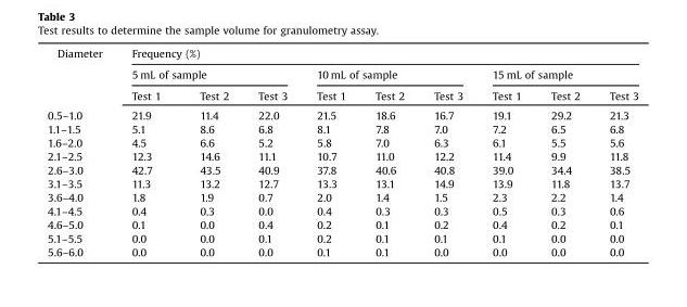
<table><thead><tr><td rowspan="3">Diameter</td><td colspan="9">Frequency (%)</td></tr><tr><td colspan="3">5 mL of sample</td><td colspan="3">10 mL of sample</td><td colspan="3">15 mL of sample</td></tr><tr><td>Test 1</td><td>Test 2</td><td>Test 3</td><td>Test 1</td><td>Test 2</td><td>Test 3</td><td>Test 1</td><td>Test 2</td><td>Test 3</td></tr></thead><tbody><tr><td>0.5–1.0</td><td>21.9</td><td>11.4</td><td>22.0</td><td>21.5</td><td>18.6</td><td>16.7</td><td>19.1</td><td>29.2</td><td>21.3</td></tr><tr><td>1.1–1.5</td><td>5.1</td><td>8.6</td><td>6.8</td><td>8.1</td><td>7.8</td><td>7.0</td><td>7.2</td><td>6.5</td><td>6.8</td></tr><tr><td>1.6–2.0</td><td>4.5</td><td>6.6</td><td>5.2</td><td>5.8</td><td>7.0</td><td>6.3</td><td>6.1</td><td>5.5</td><td>5.6</td></tr><tr><td>2.1–2.5</td><td>12.3</td><td>14.6</td><td>11.1</td><td>10.7</td><td>11.0</td><td>12.2</td><td>11.4</td><td>9.9</td><td>11.8</td></tr><tr><td>2.6–3.0</td><td>42.7</td><td>43.5</td><td>40.9</td><td>37.8</td><td>40.6</td><td>40.8</td><td>39.0</td><td>34.4</td><td>38.5</td></tr><tr><td>3.1–3.5</td><td>11.3</td><td>13.2</td><td>12.7</td><td>13.3</td><td>13.1</td><td>14.9</td><td>13.9</td><td>11.8</td><td>13.7</td></tr><tr><td>3.6–4.0</td><td>1.8</td><td>1.9</td><td>0.7</td><td>2.0</td><td>1.4</td><td>1.5</td><td>2.3</td><td>2.2</td><td>1.4</td></tr><tr><td>4.1–4.5</td><td>0.4</td><td>0.3</td><td>0.0</td><td>0.4</td><td>0.3</td><td>0.3</td><td>0.5</td><td>0.3</td><td>0.6</td></tr><tr><td>4.6–5.0</td><td>0.1</td><td>0.0</td><td>0.4</td><td>0.2</td><td>0.1</td><td>0.2</td><td>0.4</td><td>0.2</td><td>0.1</td></tr><tr><td>5.1–5.5</td><td>0.0</td><td>0.0</td><td>0.1</td><td>0.2</td><td>0.1</td><td>0.1</td><td>0.1</td><td>0.0</td><td>0.0</td></tr><tr><td>5.6–6.0</td><td>0.0</td><td>0.0</td><td>0.0</td><td>0.1</td><td>0.1</td><td>0.0</td><td>0.0</td><td>0.0</td><td>0.0</td></tr></tbody></table>